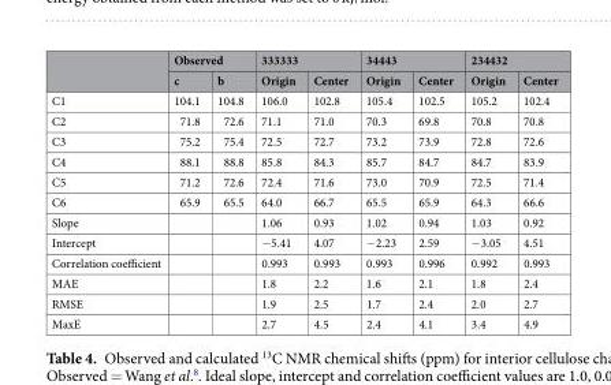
<table><thead><tr><td rowspan="2"></td><td colspan="2">Observed</td><td colspan="2">333333</td><td colspan="2">34443</td><td colspan="2">234432</td></tr><tr><td>c</td><td>b</td><td>Origin</td><td>Center</td><td>Origin</td><td>Center</td><td>Origin</td><td>Center</td></tr></thead><tbody><tr><td>C1</td><td>104.1</td><td>104.8</td><td>106.0</td><td>102.8</td><td>105.4</td><td>102.5</td><td>105.2</td><td>102.4</td></tr><tr><td>C2</td><td>71.8</td><td>72.6</td><td>71.1</td><td>71.0</td><td>70.3</td><td>69.8</td><td>70.8</td><td>70.8</td></tr><tr><td>C3</td><td>75.2</td><td>75.4</td><td>72.5</td><td>72.7</td><td>73.2</td><td>73.9</td><td>72.8</td><td>72.6</td></tr><tr><td>C4</td><td>88.1</td><td>88.8</td><td>85.8</td><td>84.3</td><td>85.7</td><td>84.7</td><td>84.7</td><td>83.9</td></tr><tr><td>C5</td><td>71.2</td><td>72.6</td><td>72.4</td><td>71.6</td><td>73.0</td><td>70.9</td><td>72.5</td><td>71.4</td></tr><tr><td>C6</td><td>65.9</td><td>65.5</td><td>64.0</td><td>66.7</td><td>65.5</td><td>65.9</td><td>64.3</td><td>66.6</td></tr><tr><td>Slope</td><td></td><td></td><td>1.06</td><td>0.93</td><td>1.02</td><td>0.94</td><td>1.03</td><td>0.92</td></tr><tr><td>Intercept</td><td></td><td></td><td>−5.41</td><td>4.07</td><td>−2.23</td><td>2.59</td><td>−3.05</td><td>4.51</td></tr><tr><td>Correlation coefficient</td><td></td><td></td><td>0.993</td><td>0.993</td><td>0.993</td><td>0.996</td><td>0.992</td><td>0.993</td></tr><tr><td>MAE</td><td></td><td></td><td>1.8</td><td>2.2</td><td>1.6</td><td>2.1</td><td>1.8</td><td>2.4</td></tr><tr><td>RMSE</td><td></td><td></td><td>1.9</td><td>2.5</td><td>1.7</td><td>2.4</td><td>2.0</td><td>2.7</td></tr><tr><td>MaxE</td><td></td><td></td><td>2.7</td><td>4.5</td><td>2.4</td><td>4.1</td><td>3.4</td><td>4.9</td></tr></tbody></table>